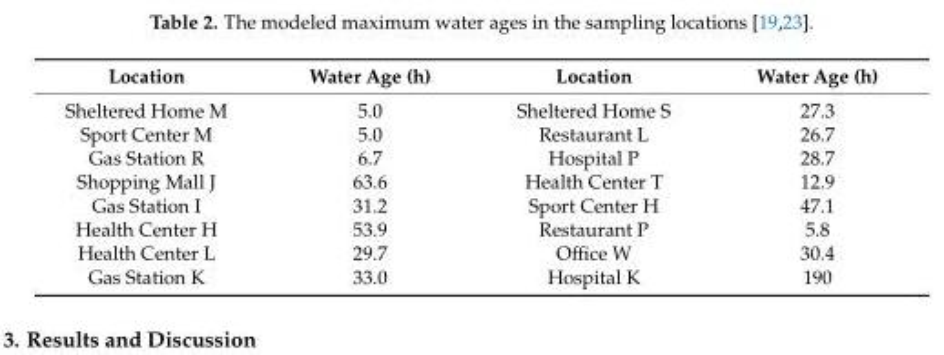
<table><thead><tr><td>Location</td><td>Water Age (h)</td><td>Location</td><td>Water Age (h)</td></tr></thead><tbody><tr><td>Sheltered Home M</td><td>5.0</td><td>Sheltered Home S</td><td>27.3</td></tr><tr><td>Sport Center M</td><td>5.0</td><td>Restaurant L</td><td>26.7</td></tr><tr><td>Gas Station R</td><td>6.7</td><td>Hospital P</td><td>28.7</td></tr><tr><td>Shopping Mall J</td><td>63.6</td><td>Health Center T</td><td>12.9</td></tr><tr><td>Gas Station I</td><td>31.2</td><td>Sport Center H</td><td>47.1</td></tr><tr><td>Health Center H</td><td>53.9</td><td>Restaurant P</td><td>5.8</td></tr><tr><td>Health Center L</td><td>29.7</td><td>Office W</td><td>30.4</td></tr><tr><td>Gas Station K</td><td>33.0</td><td>Hospital K</td><td>190</td></tr></tbody></table>